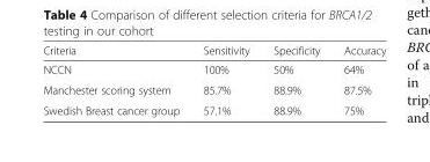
<table><thead><tr><td>Criteria</td><td>Sensitivity</td><td>Specificity</td><td>Accuracy</td></tr></thead><tbody><tr><td>NCCN</td><td>100%</td><td>50%</td><td>64%</td></tr><tr><td>Manchester scoring system</td><td>85.7%</td><td>88.9%</td><td>87.5%</td></tr><tr><td>Swedish Breast cancer group</td><td>57.1%</td><td>88.9%</td><td>75%</td></tr></tbody></table>